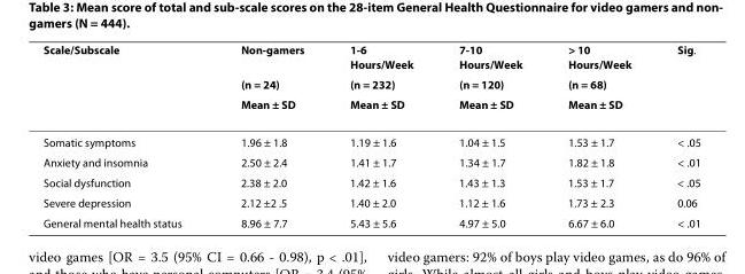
<table><thead><tr><td rowspan="3">Scale/Subscale</td><td rowspan="3">Non-gamers (n = 24) Mean ± SD</td><td rowspan="3">1-6 Hours/Week (n = 232) Mean ± SD</td><td rowspan="3">7-10 Hours/Week (n = 120) Mean ± SD</td><td rowspan="3">&gt; 10 Hours/Week (n = 68) Mean ± SD</td><td rowspan="3">Sig.</td></tr><tr></tr><tr></tr></thead><tbody><tr><td>Somatic symptoms</td><td>1.96 ± 1.8</td><td>1.19 ± 1.6</td><td>1.04 ± 1.5</td><td>1.53 ± 1.7</td><td>&lt; .05</td></tr><tr><td>Anxiety and insomnia</td><td>2.50 ± 2.4</td><td>1.41 ± 1.7</td><td>1.34 ± 1.7</td><td>1.82 ± 1.8</td><td>&lt; .01</td></tr><tr><td>Social dysfunction</td><td>2.38 ± 2.0</td><td>1.42 ± 1.6</td><td>1.43 ± 1.3</td><td>1.53 ± 1.7</td><td>&lt; .05</td></tr><tr><td>Severe depression</td><td>2.12 ±2 .5</td><td>1.40 ± 2.0</td><td>1.12 ± 1.6</td><td>1.73 ± 2.3</td><td>0.06</td></tr><tr><td>General mental health status</td><td>8.96 ± 7.7</td><td>5.43 ± 5.6</td><td>4.97 ± 5.0</td><td>6.67 ± 6.0</td><td>&lt; .01</td></tr></tbody></table>